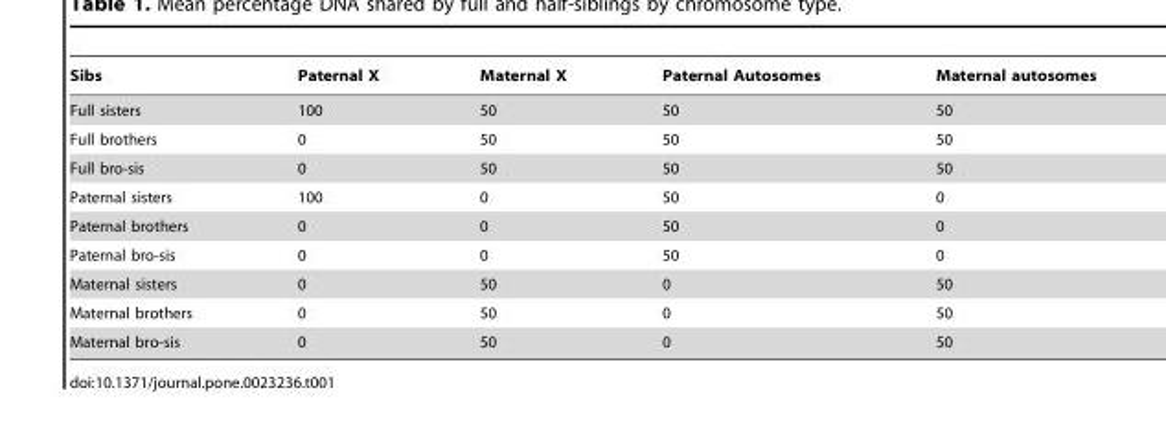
<table><thead><tr><td>Sibs</td><td>Paternal X</td><td>Maternal X</td><td>Paternal Autosomes</td><td>Maternal autosomes</td></tr></thead><tbody><tr><td>Full sisters</td><td>100</td><td>50</td><td>50</td><td>50</td></tr><tr><td>Full brothers</td><td>0</td><td>50</td><td>50</td><td>50</td></tr><tr><td>Full bro-sis</td><td>0</td><td>50</td><td>50</td><td>50</td></tr><tr><td>Paternal sisters</td><td>100</td><td>0</td><td>50</td><td>0</td></tr><tr><td>Paternal brothers</td><td>0</td><td>0</td><td>50</td><td>0</td></tr><tr><td>Paternal bro-sis</td><td>0</td><td>0</td><td>50</td><td>0</td></tr><tr><td>Maternal sisters</td><td>0</td><td>50</td><td>0</td><td>50</td></tr><tr><td>Maternal brothers</td><td>0</td><td>50</td><td>0</td><td>50</td></tr><tr><td>Maternal bro-sis</td><td>0</td><td>50</td><td>0</td><td>50</td></tr></tbody></table>